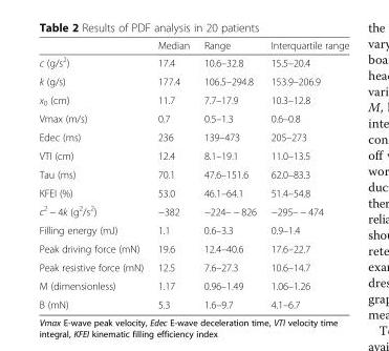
<table><thead><tr><td></td><td>Median</td><td>Range</td><td>Interquartile range</td></tr></thead><tbody><tr><td>c (g/s<sup>2</sup>)</td><td>17.4</td><td>10.6–32.8</td><td>15.5–20.4</td></tr><tr><td>k (g/s)</td><td>177.4</td><td>106.5–294.8</td><td>153.9–206.9</td></tr><tr><td>x<sub>0</sub> (cm)</td><td>11.7</td><td>7.7–17.9</td><td>10.3–12.8</td></tr><tr><td>Vmax (m/s)</td><td>0.7</td><td>0.5–1.3</td><td>0.6–0.8</td></tr><tr><td>Edec (ms)</td><td>236</td><td>139–473</td><td>205–273</td></tr><tr><td>VTI (cm)</td><td>12.4</td><td>8.1–19.1</td><td>11.0–13.5</td></tr><tr><td>Tau (ms)</td><td>70.1</td><td>47.6–151.6</td><td>62.0–83.3</td></tr><tr><td>KFEI (%)</td><td>53.0</td><td>46.1–64.1</td><td>51.4–54.8</td></tr><tr><td>c<sup>2</sup> − 4k (g<sup>2</sup>/s<sup>2</sup>)</td><td>−382</td><td>−224– − 826</td><td>−295– − 474</td></tr><tr><td>Filling energy (mJ)</td><td>1.1</td><td>0.6–3.3</td><td>0.9–1.4</td></tr><tr><td>Peak driving force (mN)</td><td>19.6</td><td>12.4–40.6</td><td>17.6–22.7</td></tr><tr><td>Peak resistive force (mN)</td><td>12.5</td><td>7.6–27.3</td><td>10.6–14.7</td></tr><tr><td>M (dimensionless)</td><td>1.17</td><td>0.96–1.49</td><td>1.06–1.26</td></tr><tr><td>B (mN)</td><td>5.3</td><td>1.6–9.7</td><td>4.1–6.7</td></tr></tbody></table>